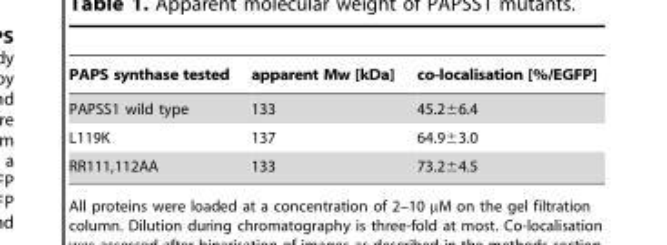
<table><thead><tr><td>PAPS synthase tested</td><td>apparent Mw [kDa]</td><td>co-localisation [%/EGFP]</td></tr></thead><tbody><tr><td>PAPSS1 wild type</td><td>133</td><td>45.2±6.4</td></tr><tr><td>L119K</td><td>137</td><td>64.9±3.0</td></tr><tr><td>RR111,112AA</td><td>133</td><td>73.2±4.5</td></tr></tbody></table>